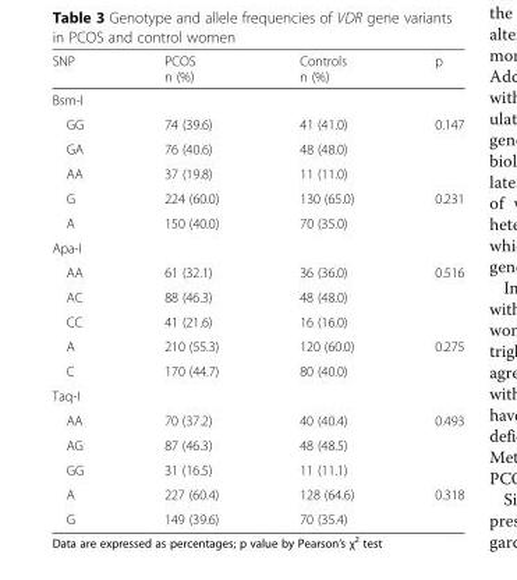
<table><thead><tr><td>SNP</td><td>PCOS n (%)</td><td>Controls n (%)</td><td>p</td></tr></thead><tbody><tr><td colspan="4">Bsm-I</td></tr><tr><td>GG</td><td>74 (39.6)</td><td>41 (41.0)</td><td rowspan="3">0.147</td></tr><tr><td>GA</td><td>76 (40.6)</td><td>48 (48.0)</td></tr><tr><td>AA</td><td>37 (19.8)</td><td>11 (11.0)</td></tr><tr><td>G</td><td>224 (60.0)</td><td>130 (65.0)</td><td rowspan="2">0.231</td></tr><tr><td>A</td><td>150 (40.0)</td><td>70 (35.0)</td></tr><tr><td colspan="4">Apa-I</td></tr><tr><td>AA</td><td>61 (32.1)</td><td>36 (36.0)</td><td rowspan="3">0.516</td></tr><tr><td>AC</td><td>88 (46.3)</td><td>48 (48.0)</td></tr><tr><td>CC</td><td>41 (21.6)</td><td>16 (16.0)</td></tr><tr><td>A</td><td>210 (55.3)</td><td>120 (60.0)</td><td rowspan="2">0.275</td></tr><tr><td>C</td><td>170 (44.7)</td><td>80 (40.0)</td></tr><tr><td colspan="4">Taq-I</td></tr><tr><td>AA</td><td>70 (37.2)</td><td>40 (40.4)</td><td rowspan="3">0.493</td></tr><tr><td>AG</td><td>87 (46.3)</td><td>48 (48.5)</td></tr><tr><td>GG</td><td>31 (16.5)</td><td>11 (11.1)</td></tr><tr><td>A</td><td>227 (60.4)</td><td>128 (64.6)</td><td rowspan="2">0.318</td></tr><tr><td>G</td><td>149 (39.6)</td><td>70 (35.4)</td></tr></tbody></table>